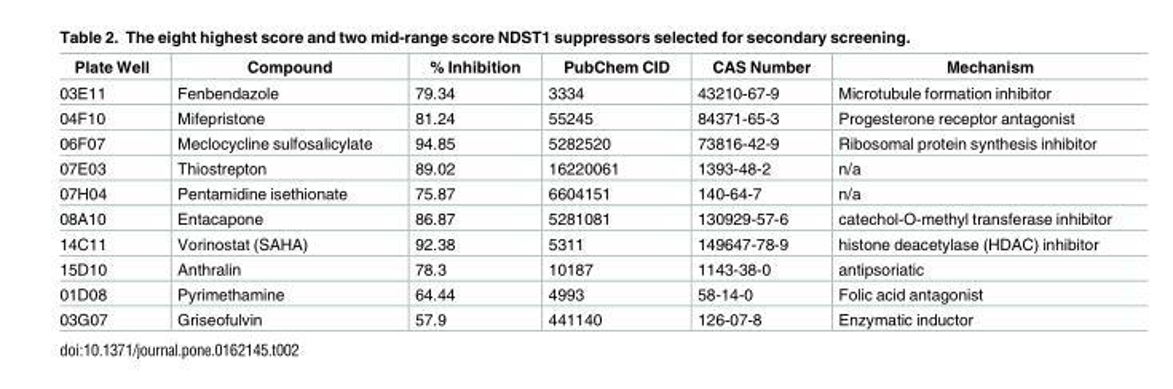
<table><thead><tr><td>Plate Well</td><td>Compound</td><td>% Inhibition</td><td>PubChem CID</td><td>CAS Number</td><td>Mechanism</td></tr></thead><tbody><tr><td>03E11</td><td>Fenbendazole</td><td>79.34</td><td>3334</td><td>43210-67-9</td><td>Microtubule formation inhibitor</td></tr><tr><td>04F10</td><td>Mifepristone</td><td>81.24</td><td>55245</td><td>84371-65-3</td><td>Progesterone receptor antagonist</td></tr><tr><td>06F07</td><td>Meclocycline sulfosalicylate</td><td>94.85</td><td>5282520</td><td>73816-42-9</td><td>Ribosomal protein synthesis inhibitor</td></tr><tr><td>07E03</td><td>Thiostrepton</td><td>89.02</td><td>16220061</td><td>1393-48-2</td><td>n/a</td></tr><tr><td>07H04</td><td>Pentamidine isethionate</td><td>75.87</td><td>6604151</td><td>140-64-7</td><td>n/a</td></tr><tr><td>08A10</td><td>Entacapone</td><td>86.87</td><td>5281081</td><td>130929-57-6</td><td>catechol-O-methyl transferase inhibitor</td></tr><tr><td>14C11</td><td>Vorinostat (SAHA)</td><td>92.38</td><td>5311</td><td>149647-78-9</td><td>histone deacetylase (HDAC) inhibitor</td></tr><tr><td>15D10</td><td>Anthralin</td><td>78.3</td><td>10187</td><td>1143-38-0</td><td>antipsoriatic</td></tr><tr><td>01D08</td><td>Pyrimethamine</td><td>64.44</td><td>4993</td><td>58-14-0</td><td>Folic acid antagonist</td></tr><tr><td>03G07</td><td>Griseofulvin</td><td>57.9</td><td>441140</td><td>126-07-8</td><td>Enzymatic inductor</td></tr></tbody></table>